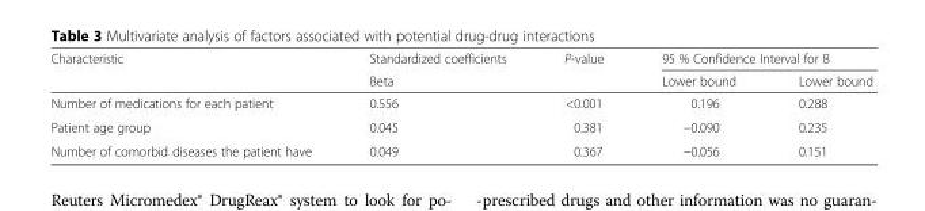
<table><thead><tr><td rowspan="2">Characteristic</td><td rowspan="2">Standardized coefficients Beta</td><td rowspan="2">P-value</td><td colspan="2">95 % Confidence Interval for B</td></tr><tr><td>Lower bound</td><td>Lower bound</td></tr></thead><tbody><tr><td>Number of medications for each patient</td><td>0.556</td><td>&lt;0.001</td><td>0.196</td><td>0.288</td></tr><tr><td>Patient age group</td><td>0.045</td><td>0.381</td><td>−0.090</td><td>0.235</td></tr><tr><td>Number of comorbid diseases the patient have</td><td>0.049</td><td>0.367</td><td>−0.056</td><td>0.151</td></tr></tbody></table>